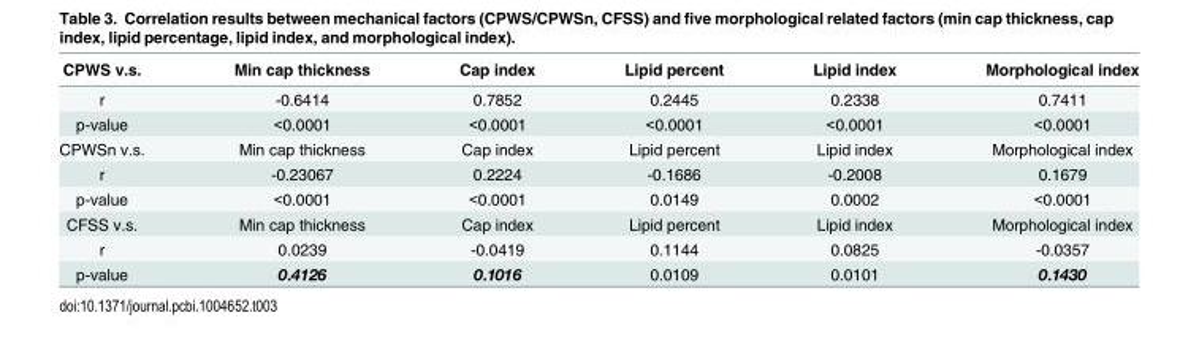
<table><thead><tr><td>CPWS v.s.</td><td>Min cap thickness</td><td>Cap index</td><td>Lipid percent</td><td>Lipid index</td><td>Morphological index</td></tr></thead><tbody><tr><td>r</td><td>-0.6414</td><td>0.7852</td><td>0.2445</td><td>0.2338</td><td>0.7411</td></tr><tr><td>p-value</td><td>&lt;0.0001</td><td>&lt;0.0001</td><td>&lt;0.0001</td><td>&lt;0.0001</td><td>&lt;0.0001</td></tr><tr><td>CPWSn v.s.</td><td>Min cap thickness</td><td>Cap index</td><td>Lipid percent</td><td>Lipid index</td><td>Morphological index</td></tr><tr><td>r</td><td>-0.23067</td><td>0.2224</td><td>-0.1686</td><td>-0.2008</td><td>0.1679</td></tr><tr><td>p-value</td><td>&lt;0.0001</td><td>&lt;0.0001</td><td>0.0149</td><td>0.0002</td><td>&lt;0.0001</td></tr><tr><td>CFSS v.s.</td><td>Min cap thickness</td><td>Cap index</td><td>Lipid percent</td><td>Lipid index</td><td>Morphological index</td></tr><tr><td>r</td><td>0.0239</td><td>-0.0419</td><td>0.1144</td><td>0.0825</td><td>-0.0357</td></tr><tr><td>p-value</td><td>0.4126</td><td>0.1016</td><td>0.0109</td><td>0.0101</td><td>0.1430</td></tr></tbody></table>